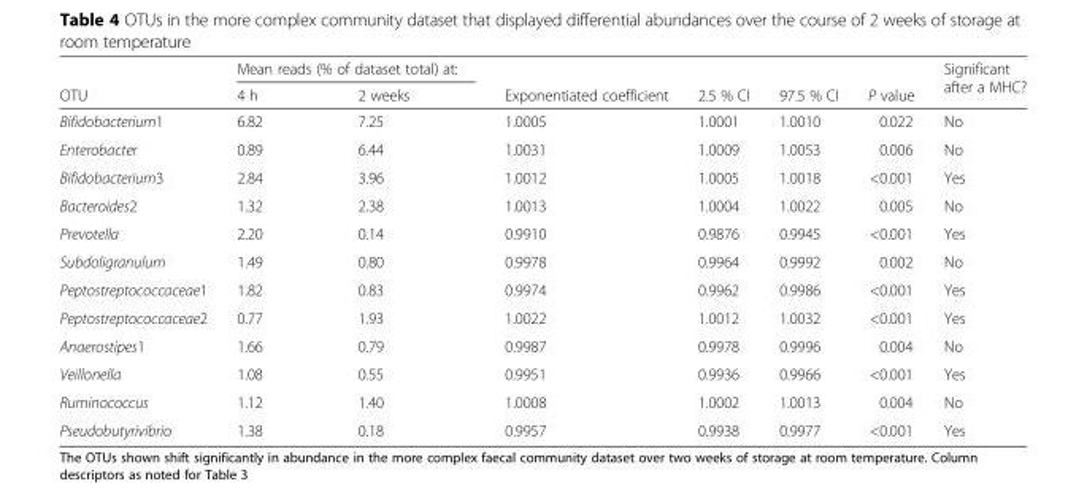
<table><thead><tr><td rowspan="2">OTU</td><td colspan="2">Mean reads (% of dataset total) at:</td><td rowspan="2">Exponentiated coefficient</td><td rowspan="2">2.5 % CI</td><td rowspan="2">97.5 % CI</td><td rowspan="2">P value</td><td rowspan="2">Significant after a MHC?</td></tr><tr><td>4 h</td><td>2 weeks</td></tr></thead><tbody><tr><td>Bifidobacterium1</td><td>6.82</td><td>7.25</td><td>1.0005</td><td>1.0001</td><td>1.0010</td><td>0.022</td><td>No</td></tr><tr><td>Enterobacter</td><td>0.89</td><td>6.44</td><td>1.0031</td><td>1.0009</td><td>1.0053</td><td>0.006</td><td>No</td></tr><tr><td>Bifidobacterium3</td><td>2.84</td><td>3.96</td><td>1.0012</td><td>1.0005</td><td>1.0018</td><td>&lt;0.001</td><td>Yes</td></tr><tr><td>Bacteroides2</td><td>1.32</td><td>2.38</td><td>1.0013</td><td>1.0004</td><td>1.0022</td><td>0.005</td><td>No</td></tr><tr><td>Prevotella</td><td>2.20</td><td>0.14</td><td>0.9910</td><td>0.9876</td><td>0.9945</td><td>&lt;0.001</td><td>Yes</td></tr><tr><td>Subdoligranulum</td><td>1.49</td><td>0.80</td><td>0.9978</td><td>0.9964</td><td>0.9992</td><td>0.002</td><td>No</td></tr><tr><td>Peptostreptococcaceae1</td><td>1.82</td><td>0.83</td><td>0.9974</td><td>0.9962</td><td>0.9986</td><td>&lt;0.001</td><td>Yes</td></tr><tr><td>Peptostreptococcaceae2</td><td>0.77</td><td>1.93</td><td>1.0022</td><td>1.0012</td><td>1.0032</td><td>&lt;0.001</td><td>Yes</td></tr><tr><td>Anaerostipes1</td><td>1.66</td><td>0.79</td><td>0.9987</td><td>0.9978</td><td>0.9996</td><td>0.004</td><td>No</td></tr><tr><td>Veillonella</td><td>1.08</td><td>0.55</td><td>0.9951</td><td>0.9936</td><td>0.9966</td><td>&lt;0.001</td><td>Yes</td></tr><tr><td>Ruminococcus</td><td>1.12</td><td>1.40</td><td>1.0008</td><td>1.0002</td><td>1.0013</td><td>0.004</td><td>No</td></tr><tr><td>Pseudobutyrivibrio</td><td>1.38</td><td>0.18</td><td>0.9957</td><td>0.9938</td><td>0.9977</td><td>&lt;0.001</td><td>Yes</td></tr></tbody></table>